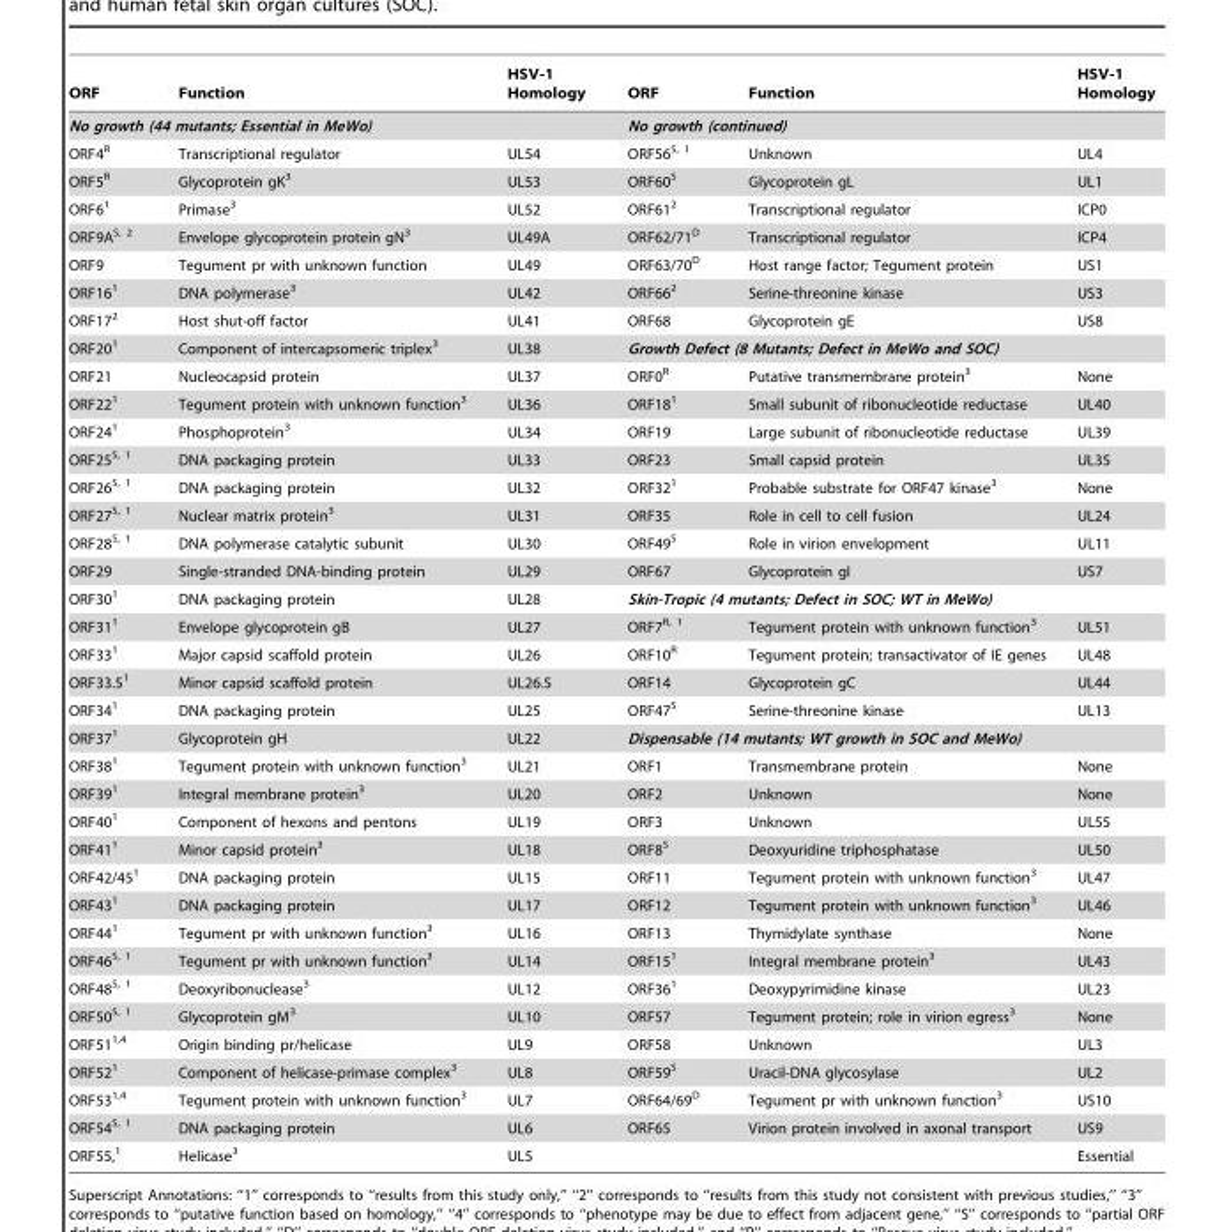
<table><thead><tr><td>ORF</td><td>Function</td><td>HSV-1 Homology</td><td>ORF</td><td>Function</td><td>HSV-1 Homology</td></tr></thead><tbody><tr><td colspan="3">No growth (44 mutants; Essential in MeWo)</td><td colspan="3">No growth (continued)</td></tr><tr><td>ORF4<sup>R</sup></td><td>Transcriptional regulator</td><td>UL54</td><td>ORF56<sup>S, 1</sup></td><td>Unknown</td><td>UL4</td></tr><tr><td>ORF5<sup>R</sup></td><td>Glycoprotein gK<sup>3</sup></td><td>UL53</td><td>ORF60<sup>S</sup></td><td>Glycoprotein gL</td><td>UL1</td></tr><tr><td>ORF6<sup>1</sup></td><td>Primase<sup>3</sup></td><td>UL52</td><td>ORF61<sup>2</sup></td><td>Transcriptional regulator</td><td>ICP0</td></tr><tr><td>ORF9A<sup>S, 2</sup></td><td>Envelope glycoprotein protein gN<sup>3</sup></td><td>UL49A</td><td>ORF62/71<sup>D</sup></td><td>Transcriptional regulator</td><td>ICP4</td></tr><tr><td>ORF9</td><td>Tegument pr with unknown function</td><td>UL49</td><td>ORF63/70<sup>D</sup></td><td>Host range factor; Tegument protein</td><td>US1</td></tr><tr><td>ORF16<sup>1</sup></td><td>DNA polymerase<sup>3</sup></td><td>UL42</td><td>ORF66<sup>2</sup></td><td>Serine-threonine kinase</td><td>US3</td></tr><tr><td>ORF17<sup>2</sup></td><td>Host shut-off factor</td><td>UL41</td><td>ORF68</td><td>Glycoprotein gE</td><td>US8</td></tr><tr><td>ORF20<sup>1</sup></td><td>Component of intercapsomeric triplex<sup>3</sup></td><td>UL38</td><td colspan="3">Growth Defect (8 Mutants; Defect in MeWo and SOC)</td></tr><tr><td>ORF21</td><td>Nucleocapsid protein</td><td>UL37</td><td>ORF0<sup>R</sup></td><td>Putative transmembrane protein<sup>3</sup></td><td>None</td></tr><tr><td>ORF22<sup>1</sup></td><td>Tegument protein with unknown function<sup>3</sup></td><td>UL36</td><td>ORF18<sup>1</sup></td><td>Small subunit of ribonucleotide reductase</td><td>UL40</td></tr><tr><td>ORF24<sup>1</sup></td><td>Phosphoprotein<sup>3</sup></td><td>UL34</td><td>ORF19</td><td>Large subunit of ribonucleotide reductase</td><td>UL39</td></tr><tr><td>ORF25<sup>S, 1</sup></td><td>DNA packaging protein</td><td>UL33</td><td>ORF23</td><td>Small capsid protein</td><td>UL35</td></tr><tr><td>ORF26<sup>S, 1</sup></td><td>DNA packaging protein</td><td>UL32</td><td>ORF32<sup>1</sup></td><td>Probable substrate for ORF47 kinase<sup>3</sup></td><td>None</td></tr><tr><td>ORF27<sup>S, 1</sup></td><td>Nuclear matrix protein<sup>3</sup></td><td>UL31</td><td>ORF35</td><td>Role in cell to cell fusion</td><td>UL24</td></tr><tr><td>ORF28<sup>S, 1</sup></td><td>DNA polymerase catalytic subunit</td><td>UL30</td><td>ORF49<sup>S</sup></td><td>Role in virion envelopment</td><td>UL11</td></tr><tr><td>ORF29</td><td>Single-stranded DNA-binding protein</td><td>UL29</td><td>ORF67</td><td>Glycoprotein gI</td><td>US7</td></tr><tr><td>ORF30<sup>1</sup></td><td>DNA packaging protein</td><td>UL28</td><td colspan="3">Skin-Tropic (4 mutants; Defect in SOC; WT in MeWo)</td></tr><tr><td>ORF31<sup>1</sup></td><td>Envelope glycoprotein gB</td><td>UL27</td><td>ORF7<sup>R, 1</sup></td><td>Tegument protein with unknown function<sup>3</sup></td><td>UL51</td></tr><tr><td>ORF33<sup>1</sup></td><td>Major capsid scaffold protein</td><td>UL26</td><td>ORF10<sup>R</sup></td><td>Tegument protein; transactivator of IE genes</td><td>UL48</td></tr><tr><td>ORF33.5<sup>1</sup></td><td>Minor capsid scaffold protein</td><td>UL26.5</td><td>ORF14</td><td>Glycoprotein gC</td><td>UL44</td></tr><tr><td>ORF34<sup>1</sup></td><td>DNA packaging protein</td><td>UL25</td><td>ORF47<sup>S</sup></td><td>Serine-threonine kinase</td><td>UL13</td></tr><tr><td>ORF37<sup>1</sup></td><td>Glycoprotein gH</td><td>UL22</td><td colspan="3">Dispensable (14 mutants; WT growth in SOC and MeWo)</td></tr><tr><td>ORF38<sup>1</sup></td><td>Tegument protein with unknown function<sup>3</sup></td><td>UL21</td><td>ORF1</td><td>Transmembrane protein</td><td>None</td></tr><tr><td>ORF39<sup>1</sup></td><td>Integral membrane protein<sup>3</sup></td><td>UL20</td><td>ORF2</td><td>Unknown</td><td>None</td></tr><tr><td>ORF40<sup>1</sup></td><td>Component of hexons and pentons</td><td>UL19</td><td>ORF3</td><td>Unknown</td><td>UL55</td></tr><tr><td>ORF41<sup>1</sup></td><td>Minor capsid protein<sup>3</sup></td><td>UL18</td><td>ORF8<sup>S</sup></td><td>Deoxyuridine triphosphatase</td><td>UL50</td></tr><tr><td>ORF42/45<sup>1</sup></td><td>DNA packaging protein</td><td>UL15</td><td>ORF11</td><td>Tegument protein with unknown function<sup>3</sup></td><td>UL47</td></tr><tr><td>ORF43<sup>1</sup></td><td>DNA packaging protein</td><td>UL17</td><td>ORF12</td><td>Tegument protein with unknown function<sup>3</sup></td><td>UL46</td></tr><tr><td>ORF44<sup>1</sup></td><td>Tegument pr with unknown function<sup>3</sup></td><td>UL16</td><td>ORF13</td><td>Thymidylate synthase</td><td>None</td></tr><tr><td>ORF46<sup>S, 1</sup></td><td>Tegument pr with unknown function<sup>3</sup></td><td>UL14</td><td>ORF15<sup>1</sup></td><td>Integral membrane protein<sup>3</sup></td><td>UL43</td></tr><tr><td>ORF48<sup>S, 1</sup></td><td>Deoxyribonuclease<sup>3</sup></td><td>UL12</td><td>ORF36<sup>1</sup></td><td>Deoxypyrimidine kinase</td><td>UL23</td></tr><tr><td>ORF50<sup>S, 1</sup></td><td>Glycoprotein gM<sup>3</sup></td><td>UL10</td><td>ORF57</td><td>Tegument protein; role in virion egress<sup>3</sup></td><td>None</td></tr><tr><td>ORF51<sup>1,4</sup></td><td>Origin binding pr/helicase</td><td>UL9</td><td>ORF58</td><td>Unknown</td><td>UL3</td></tr><tr><td>ORF52<sup>1</sup></td><td>Component of helicase-primase complex<sup>3</sup></td><td>UL8</td><td>ORF59<sup>S</sup></td><td>Uracil-DNA glycosylase</td><td>UL2</td></tr><tr><td>ORF53<sup>1,4</sup></td><td>Tegument protein with unknown function<sup>3</sup></td><td>UL7</td><td>ORF64/69<sup>D</sup></td><td>Tegument pr with unknown function<sup>3</sup></td><td>US10</td></tr><tr><td>ORF54<sup>S, 1</sup></td><td>DNA packaging protein</td><td>UL6</td><td>ORF65</td><td>Virion protein involved in axonal transport</td><td>US9</td></tr><tr><td>ORF55,<sup>1</sup></td><td>Helicase<sup>3</sup></td><td>UL5</td><td></td><td></td><td>Essential</td></tr></tbody></table>